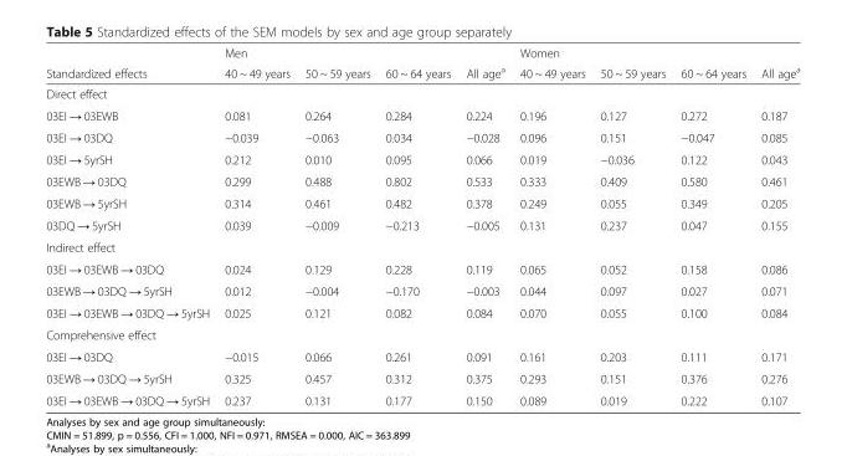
<table><thead><tr><td rowspan="2">Standardized effects</td><td colspan="4">Men</td><td colspan="4">Women</td></tr><tr><td>40 ~ 49 years</td><td>50 ~ 59 years</td><td>60 ~ 64 years</td><td>All age<sup>a</sup></td><td>40 ~ 49 years</td><td>50 ~ 59 years</td><td>60 ~ 64 years</td><td>All age<sup>a</sup></td></tr></thead><tbody><tr><td colspan="9">Direct effect</td></tr><tr><td>03EI → 03EWB</td><td>0.081</td><td>0.264</td><td>0.284</td><td>0.224</td><td>0.196</td><td>0.127</td><td>0.272</td><td>0.187</td></tr><tr><td>03EI → 03DQ</td><td>−0.039</td><td>−0.063</td><td>0.034</td><td>−0.028</td><td>0.096</td><td>0.151</td><td>−0.047</td><td>0.085</td></tr><tr><td>03EI → 5yrSH</td><td>0.212</td><td>0.010</td><td>0.095</td><td>0.066</td><td>0.019</td><td>−0.036</td><td>0.122</td><td>0.043</td></tr><tr><td>03EWB → 03DQ</td><td>0.299</td><td>0.488</td><td>0.802</td><td>0.533</td><td>0.333</td><td>0.409</td><td>0.580</td><td>0.461</td></tr><tr><td>03EWB → 5yrSH</td><td>0.314</td><td>0.461</td><td>0.482</td><td>0.378</td><td>0.249</td><td>0.055</td><td>0.349</td><td>0.205</td></tr><tr><td>03DQ → 5yrSH</td><td>0.039</td><td>−0.009</td><td>−0.213</td><td>−0.005</td><td>0.131</td><td>0.237</td><td>0.047</td><td>0.155</td></tr><tr><td colspan="9">Indirect effect</td></tr><tr><td>03EI → 03EWB → 03DQ</td><td>0.024</td><td>0.129</td><td>0.228</td><td>0.119</td><td>0.065</td><td>0.052</td><td>0.158</td><td>0.086</td></tr><tr><td>03EWB → 03DQ → 5yrSH</td><td>0.012</td><td>−0.004</td><td>−0.170</td><td>−0.003</td><td>0.044</td><td>0.097</td><td>0.027</td><td>0.071</td></tr><tr><td>03EI → 03EWB → 03DQ → 5yrSH</td><td>0.025</td><td>0.121</td><td>0.082</td><td>0.084</td><td>0.070</td><td>0.055</td><td>0.100</td><td>0.084</td></tr><tr><td colspan="9">Comprehensive effect</td></tr><tr><td>03EI → 03DQ</td><td>−0.015</td><td>0.066</td><td>0.261</td><td>0.091</td><td>0.161</td><td>0.203</td><td>0.111</td><td>0.171</td></tr><tr><td>03EWB → 03DQ → 5yrSH</td><td>0.325</td><td>0.457</td><td>0.312</td><td>0.375</td><td>0.293</td><td>0.151</td><td>0.376</td><td>0.276</td></tr><tr><td>03EI → 03EWB → 03DQ → 5yrSH</td><td>0.237</td><td>0.131</td><td>0.177</td><td>0.150</td><td>0.089</td><td>0.019</td><td>0.222</td><td>0.107</td></tr></tbody></table>